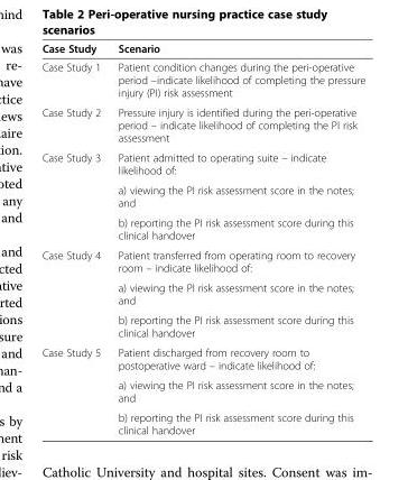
<table><thead><tr><td>Case Study</td><td>Scenario</td></tr></thead><tbody><tr><td>Case Study 1</td><td>Patient condition changes during the peri-operative period –indicate likelihood of completing the pressure injury (PI) risk assessment</td></tr><tr><td>Case Study 2</td><td>Pressure injury is identified during the peri-operative period – indicate likelihood of completing the PI risk assessment</td></tr><tr><td rowspan="3">Case Study 3</td><td>Patient admitted to operating suite – indicate likelihood of:</td></tr><tr><td>a) viewing the PI risk assessment score in the notes; and</td></tr><tr><td>b) reporting the PI risk assessment score during this clinical handover</td></tr><tr><td rowspan="3">Case Study 4</td><td>Patient transferred from operating room to recovery room – indicate likelihood of:</td></tr><tr><td>a) viewing the PI risk assessment score in the notes; and</td></tr><tr><td>b) reporting the PI risk assessment score during this clinical handover</td></tr><tr><td rowspan="3">Case Study 5</td><td>Patient discharged from recovery room to postoperative ward – indicate likelihood of:</td></tr><tr><td>a) viewing the PI risk assessment score in the notes; and</td></tr><tr><td>b) reporting the PI risk assessment score during this clinical handover</td></tr></tbody></table>